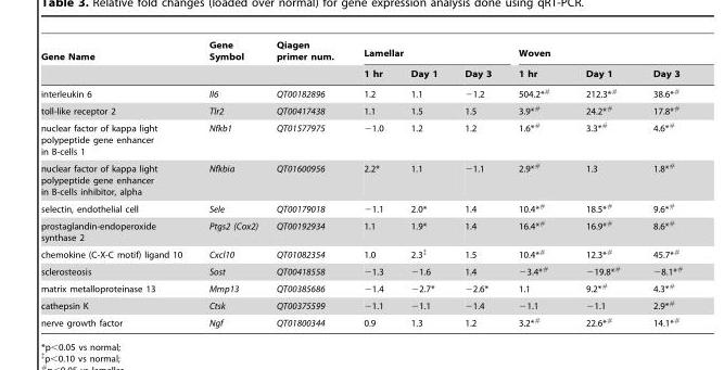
<table><thead><tr><td rowspan="2">Gene Name</td><td rowspan="2">Gene Symbol</td><td rowspan="2">Qiagen primer num.</td><td colspan="3">Lamellar</td><td colspan="3">Woven</td></tr><tr><td>1 hr</td><td>Day 1</td><td>Day 3</td><td>1 hr</td><td>Day 1</td><td>Day 3</td></tr></thead><tbody><tr><td>interleukin 6</td><td>Il6</td><td>QT00182896</td><td>1.2</td><td>1.1</td><td>−1.2</td><td>504.2*#</td><td>212.3*#</td><td>38.6*#</td></tr><tr><td>toll-like receptor 2</td><td>Tlr2</td><td>QT00417438</td><td>1.1</td><td>1.5</td><td>1.5</td><td>3.9*#</td><td>24.2*#</td><td>17.8*#</td></tr><tr><td>nuclear factor of kappa light polypeptide gene enhancer in B-cells 1</td><td>Nfkb1</td><td>QT01577975</td><td>−1.0</td><td>1.2</td><td>1.2</td><td>1.6*#</td><td>3.3*#</td><td>4.6*#</td></tr><tr><td>nuclear factor of kappa light polypeptide gene enhancer in B-cells inhibitor, alpha</td><td>Nfkbia</td><td>QT01600956</td><td>2.2*</td><td>1.1</td><td>−1.1</td><td>2.9*#</td><td>1.3</td><td>1.8*#</td></tr><tr><td>selectin, endothelial cell</td><td>Sele</td><td>QT00179018</td><td>−1.1</td><td>2.0*</td><td>1.4</td><td>10.4*#</td><td>18.5*#</td><td>9.6*#</td></tr><tr><td>prostaglandin-endoperoxide synthase 2</td><td>Ptgs2 (Cox2)</td><td>QT00192934</td><td>1.1</td><td>1.9*</td><td>1.4</td><td>16.4*#</td><td>16.9*#</td><td>8.6*#</td></tr><tr><td>chemokine (C-X-C motif) ligand 10</td><td>Cxcl10</td><td>QT01082354</td><td>1.0</td><td>2.3‡</td><td>1.5</td><td>10.4*#</td><td>12.3*#</td><td>45.7*#</td></tr><tr><td>sclerosteosis</td><td>Sost</td><td>QT00418558</td><td>−1.3</td><td>−1.6</td><td>1.4</td><td>−3.4*#</td><td>−19.8*#</td><td>−8.1*#</td></tr><tr><td>matrix metalloproteinase 13</td><td>Mmp13</td><td>QT00385686</td><td>−1.4</td><td>−2.7*</td><td>−2.6*</td><td>1.1</td><td>9.2*#</td><td>4.3*#</td></tr><tr><td>cathepsin K</td><td>Ctsk</td><td>QT00375599</td><td>−1.1</td><td>−1.1</td><td>−1.4</td><td>−1.1</td><td>−1.1</td><td>2.9*#</td></tr><tr><td>nerve growth factor</td><td>Ngf</td><td>QT01800344</td><td>0.9</td><td>1.3</td><td>1.2</td><td>3.2*#</td><td>22.6*#</td><td>14.1*#</td></tr></tbody></table>